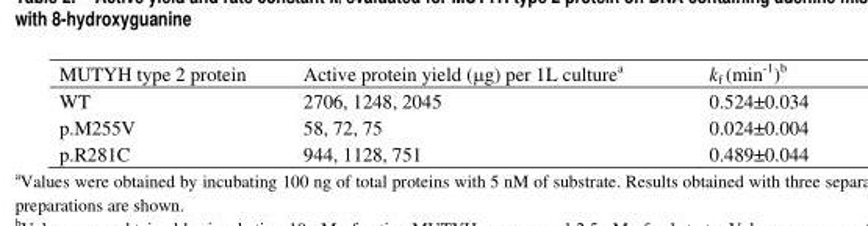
<table><thead><tr><td>MUTYH type 2 protein</td><td>Active protein yield (μg) per 1L culture<sup>a</sup></td><td>k<sub>f</sub> (min<sup>-1</sup>)<sup>b</sup></td></tr></thead><tbody><tr><td>WT</td><td>2706, 1248, 2045</td><td>0.524±0.034</td></tr><tr><td>p.M255V</td><td>58, 72, 75</td><td>0.024±0.004</td></tr><tr><td>p.R281C</td><td>944, 1128, 751</td><td>0.489±0.044</td></tr></tbody></table>